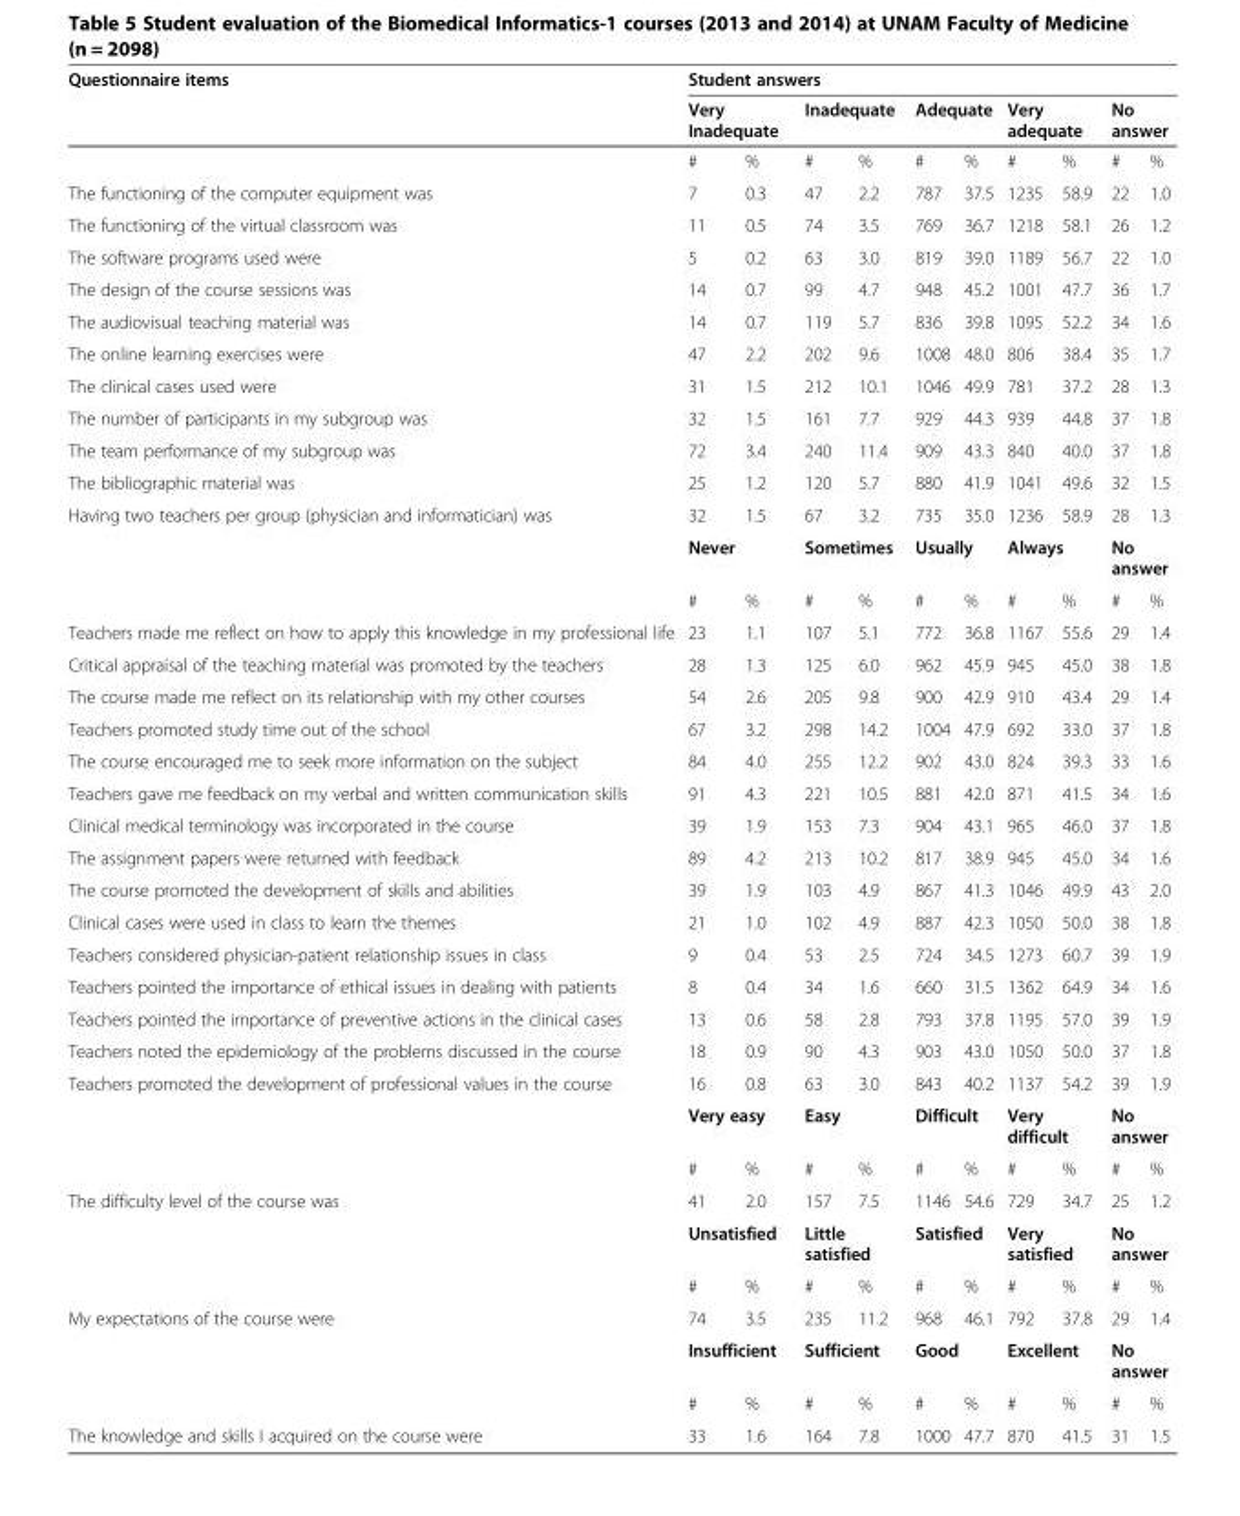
<table><thead><tr><td rowspan="3">Questionnaire items</td><td colspan="10">Student answers</td></tr><tr><td colspan="2">Very Inadequate</td><td colspan="2">Inadequate</td><td colspan="2">Adequate</td><td colspan="2">Very adequate</td><td colspan="2">No answer</td></tr><tr><td>#</td><td>%</td><td>#</td><td>%</td><td>#</td><td>%</td><td>#</td><td>%</td><td>#</td><td>%</td></tr></thead><tbody><tr><td>The functioning of the computer equipment was</td><td>7</td><td>0.3</td><td>47</td><td>2.2</td><td>787</td><td>37.5</td><td>1235</td><td>58.9</td><td>22</td><td>1.0</td></tr><tr><td>The functioning of the virtual classroom was</td><td>11</td><td>0.5</td><td>74</td><td>3.5</td><td>769</td><td>36.7</td><td>1218</td><td>58.1</td><td>26</td><td>1.2</td></tr><tr><td>The software programs used were</td><td>5</td><td>0.2</td><td>63</td><td>3.0</td><td>819</td><td>39.0</td><td>1189</td><td>56.7</td><td>22</td><td>1.0</td></tr><tr><td>The design of the course sessions was</td><td>14</td><td>0.7</td><td>99</td><td>4.7</td><td>948</td><td>45.2</td><td>1001</td><td>47.7</td><td>36</td><td>1.7</td></tr><tr><td>The audiovisual teaching material was</td><td>14</td><td>0.7</td><td>119</td><td>5.7</td><td>836</td><td>39.8</td><td>1095</td><td>52.2</td><td>34</td><td>1.6</td></tr><tr><td>The online learning exercises were</td><td>47</td><td>2.2</td><td>202</td><td>9.6</td><td>1008</td><td>48.0</td><td>806</td><td>38.4</td><td>35</td><td>1.7</td></tr><tr><td>The clinical cases used were</td><td>31</td><td>1.5</td><td>212</td><td>10.1</td><td>1046</td><td>49.9</td><td>781</td><td>37.2</td><td>28</td><td>1.3</td></tr><tr><td>The number of participants in my subgroup was</td><td>32</td><td>1.5</td><td>161</td><td>7.7</td><td>929</td><td>44.3</td><td>939</td><td>44.8</td><td>37</td><td>1.8</td></tr><tr><td>The team performance of my subgroup was</td><td>72</td><td>3.4</td><td>240</td><td>11.4</td><td>909</td><td>43.3</td><td>840</td><td>40.0</td><td>37</td><td>1.8</td></tr><tr><td>The bibliographic material was</td><td>25</td><td>1.2</td><td>120</td><td>5.7</td><td>880</td><td>41.9</td><td>1041</td><td>49.6</td><td>32</td><td>1.5</td></tr><tr><td rowspan="3">Having two teachers per group (physician and informatician) was</td><td>32</td><td>1.5</td><td>67</td><td>3.2</td><td>735</td><td>35.0</td><td>1236</td><td>58.9</td><td>28</td><td>1.3</td></tr><tr><td colspan="2">Never</td><td colspan="2">Sometimes</td><td colspan="2">Usually</td><td colspan="2">Always</td><td colspan="2">No answer</td></tr><tr><td>#</td><td>%</td><td>#</td><td>%</td><td>#</td><td>%</td><td>#</td><td>%</td><td>#</td><td>%</td></tr><tr><td>Teachers made me reflect on how to apply this knowledge in my professional life</td><td>23</td><td>1.1</td><td>107</td><td>5.1</td><td>772</td><td>36.8</td><td>1167</td><td>55.6</td><td>29</td><td>1.4</td></tr><tr><td>Critical appraisal of the teaching material was promoted by the teachers</td><td>28</td><td>1.3</td><td>125</td><td>6.0</td><td>962</td><td>45.9</td><td>945</td><td>45.0</td><td>38</td><td>1.8</td></tr><tr><td>The course made me reflect on its relationship with my other courses</td><td>54</td><td>2.6</td><td>205</td><td>9.8</td><td>900</td><td>42.9</td><td>910</td><td>43.4</td><td>29</td><td>1.4</td></tr><tr><td>Teachers promoted study time out of the school</td><td>67</td><td>3.2</td><td>298</td><td>14.2</td><td>1004</td><td>47.9</td><td>692</td><td>33.0</td><td>37</td><td>1.8</td></tr><tr><td>The course encouraged me to seek more information on the subject</td><td>84</td><td>4.0</td><td>255</td><td>12.2</td><td>902</td><td>43.0</td><td>824</td><td>39.3</td><td>33</td><td>1.6</td></tr><tr><td>Teachers gave me feedback on my verbal and written communication skills</td><td>91</td><td>4.3</td><td>221</td><td>10.5</td><td>881</td><td>42.0</td><td>871</td><td>41.5</td><td>34</td><td>1.6</td></tr><tr><td>Clinical medical terminology was incorporated in the course</td><td>39</td><td>1.9</td><td>153</td><td>7.3</td><td>904</td><td>43.1</td><td>965</td><td>46.0</td><td>37</td><td>1.8</td></tr><tr><td>The assignment papers were returned with feedback</td><td>89</td><td>4.2</td><td>213</td><td>10.2</td><td>817</td><td>38.9</td><td>945</td><td>45.0</td><td>34</td><td>1.6</td></tr><tr><td>The course promoted the development of skills and abilities</td><td>39</td><td>1.9</td><td>103</td><td>4.9</td><td>867</td><td>41.3</td><td>1046</td><td>49.9</td><td>43</td><td>2.0</td></tr><tr><td>Clinical cases were used in class to learn the themes</td><td>21</td><td>1.0</td><td>102</td><td>4.9</td><td>887</td><td>42.3</td><td>1050</td><td>50.0</td><td>38</td><td>1.8</td></tr><tr><td>Teachers considered physician-patient relationship issues in class</td><td>9</td><td>0.4</td><td>53</td><td>2.5</td><td>724</td><td>34.5</td><td>1273</td><td>60.7</td><td>39</td><td>1.9</td></tr><tr><td>Teachers pointed the importance of ethical issues in dealing with patients</td><td>8</td><td>0.4</td><td>34</td><td>1.6</td><td>660</td><td>31.5</td><td>1362</td><td>64.9</td><td>34</td><td>1.6</td></tr><tr><td>Teachers pointed the importance of preventive actions in the clinical cases</td><td>13</td><td>0.6</td><td>58</td><td>2.8</td><td>793</td><td>37.8</td><td>1195</td><td>57.0</td><td>39</td><td>1.9</td></tr><tr><td>Teachers noted the epidemiology of the problems discussed in the course</td><td>18</td><td>0.9</td><td>90</td><td>4.3</td><td>903</td><td>43.0</td><td>1050</td><td>50.0</td><td>37</td><td>1.8</td></tr><tr><td rowspan="3">Teachers promoted the development of professional values in the course</td><td>16</td><td>0.8</td><td>63</td><td>3.0</td><td>843</td><td>40.2</td><td>1137</td><td>54.2</td><td>39</td><td>1.9</td></tr><tr><td colspan="2">Very easy</td><td colspan="2">Easy</td><td colspan="2">Difficult</td><td colspan="2">Very difficult</td><td colspan="2">No answer</td></tr><tr><td>#</td><td>%</td><td>#</td><td>%</td><td>#</td><td>%</td><td>#</td><td>%</td><td>#</td><td>%</td></tr><tr><td rowspan="3">The difficulty level of the course was</td><td>41</td><td>2.0</td><td>157</td><td>7.5</td><td>1146</td><td>54.6</td><td>729</td><td>34.7</td><td>25</td><td>1.2</td></tr><tr><td colspan="2">Unsatisfied</td><td colspan="2">Little satisfied</td><td colspan="2">Satisfied</td><td colspan="2">Very satisfied</td><td colspan="2">No answer</td></tr><tr><td>#</td><td>%</td><td>#</td><td>%</td><td>#</td><td>%</td><td>#</td><td>%</td><td>#</td><td>%</td></tr><tr><td rowspan="3">My expectations of the course were</td><td>74</td><td>3.5</td><td>235</td><td>11.2</td><td>968</td><td>46.1</td><td>792</td><td>37.8</td><td>29</td><td>1.4</td></tr><tr><td colspan="2">Insufficient</td><td colspan="2">Sufficient</td><td colspan="2">Good</td><td colspan="2">Excellent</td><td colspan="2">No answer</td></tr><tr><td>#</td><td>%</td><td>#</td><td>%</td><td>#</td><td>%</td><td>#</td><td>%</td><td>#</td><td>%</td></tr><tr><td>The knowledge and skills I acquired on the course were</td><td>33</td><td>1.6</td><td>164</td><td>7.8</td><td>1000</td><td>47.7</td><td>870</td><td>41.5</td><td>31</td><td>1.5</td></tr></tbody></table>